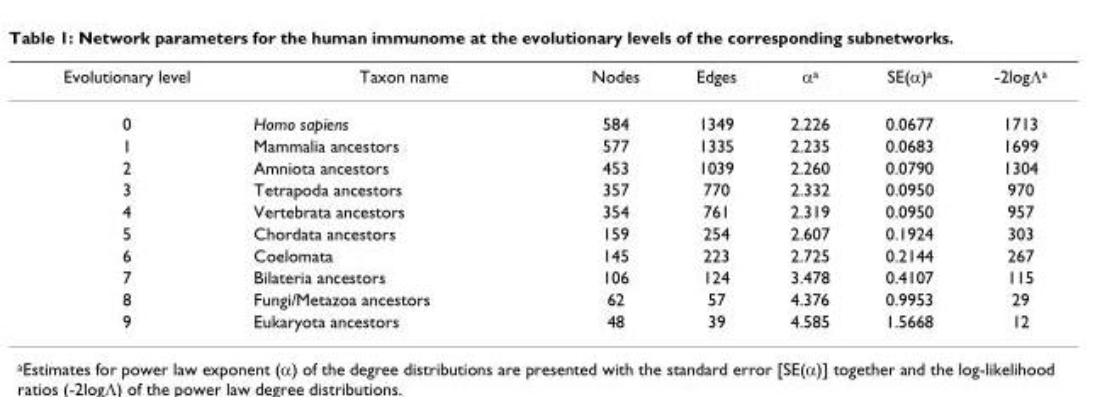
<table><thead><tr><td>Evolutionary level</td><td>Taxon name</td><td>Nodes</td><td>Edges</td><td>α<sup>a</sup></td><td>SE(α)<sup>a</sup></td><td>-2logΛ<sup>a</sup></td></tr></thead><tbody><tr><td>0</td><td>Homo sapiens</td><td>584</td><td>1349</td><td>2.226</td><td>0.0677</td><td>1713</td></tr><tr><td>1</td><td>Mammalia ancestors</td><td>577</td><td>1335</td><td>2.235</td><td>0.0683</td><td>1699</td></tr><tr><td>2</td><td>Amniota ancestors</td><td>453</td><td>1039</td><td>2.260</td><td>0.0790</td><td>1304</td></tr><tr><td>3</td><td>Tetrapoda ancestors</td><td>357</td><td>770</td><td>2.332</td><td>0.0950</td><td>970</td></tr><tr><td>4</td><td>Vertebrata ancestors</td><td>354</td><td>761</td><td>2.319</td><td>0.0950</td><td>957</td></tr><tr><td>5</td><td>Chordata ancestors</td><td>159</td><td>254</td><td>2.607</td><td>0.1924</td><td>303</td></tr><tr><td>6</td><td>Coelomata</td><td>145</td><td>223</td><td>2.725</td><td>0.2144</td><td>267</td></tr><tr><td>7</td><td>Bilateria ancestors</td><td>106</td><td>124</td><td>3.478</td><td>0.4107</td><td>115</td></tr><tr><td>8</td><td>Fungi/Metazoa ancestors</td><td>62</td><td>57</td><td>4.376</td><td>0.9953</td><td>29</td></tr><tr><td>9</td><td>Eukaryota ancestors</td><td>48</td><td>39</td><td>4.585</td><td>1.5668</td><td>12</td></tr></tbody></table>